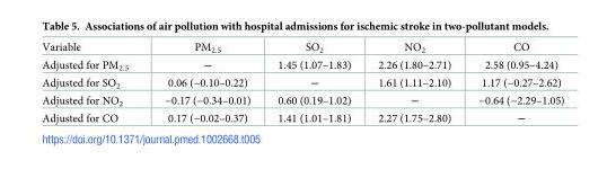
<table><tbody><tr><td>Variable</td><td>PM<sub>2.5</sub></td><td>SO<sub>2</sub></td><td>NO<sub>2</sub></td><td>CO</td></tr><tr><td>Adjusted for PM<sub>2.5</sub></td><td>―</td><td>1.45 (1.07–1.83)</td><td>2.26 (1.80–2.71)</td><td>2.58 (0.95–4.24)</td></tr><tr><td>Adjusted for SO<sub>2</sub></td><td>0.06 (−0.10–0.22)</td><td>―</td><td>1.61 (1.11–2.10)</td><td>1.17 (−0.27–2.62)</td></tr><tr><td>Adjusted for NO<sub>2</sub></td><td>−0.17 (−0.34–0.01)</td><td>0.60 (0.19–1.02)</td><td>―</td><td>−0.64 (−2.29–1.05)</td></tr><tr><td>Adjusted for CO</td><td>0.17 (−0.02–0.37)</td><td>1.41 (1.01–1.81)</td><td>2.27 (1.75–2.80)</td><td>―</td></tr></tbody></table>